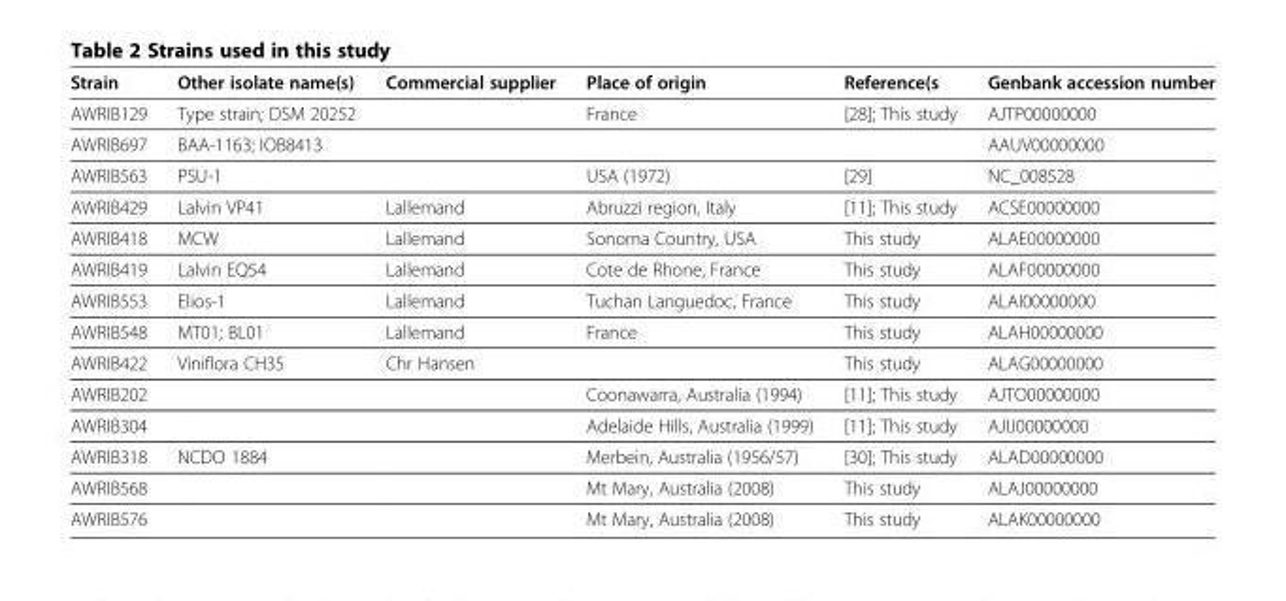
<table><thead><tr><td>Strain</td><td>Other isolate name(s)</td><td>Commercial supplier</td><td>Place of origin</td><td>Reference(s</td><td>Genbank accession number</td></tr></thead><tbody><tr><td>AWRIB129</td><td>Type strain; DSM 20252</td><td></td><td>France</td><td>[28]; This study</td><td>AJTP00000000</td></tr><tr><td>AWRIB697</td><td>BAA-1163; IOB8413</td><td></td><td></td><td></td><td>AAUV00000000</td></tr><tr><td>AWRIB563</td><td>PSU-1</td><td></td><td>USA (1972)</td><td>[29]</td><td>NC_008528</td></tr><tr><td>AWRIB429</td><td>Lalvin VP41</td><td>Lallemand</td><td>Abruzzi region, Italy</td><td>[11]; This study</td><td>ACSE00000000</td></tr><tr><td>AWRIB418</td><td>MCW</td><td>Lallemand</td><td>Sonoma Country, USA</td><td>This study</td><td>ALAE00000000</td></tr><tr><td>AWRIB419</td><td>Lalvin EQ54</td><td>Lallemand</td><td>Cote de Rhone, France</td><td>This study</td><td>ALAF00000000</td></tr><tr><td>AWRIB553</td><td>Elios-1</td><td>Lallemand</td><td>Tuchan Languedoc, France</td><td>This study</td><td>ALAI00000000</td></tr><tr><td>AWRIB548</td><td>MT01; BL01</td><td>Lallemand</td><td>France</td><td>This study</td><td>ALAH00000000</td></tr><tr><td>AWRIB422</td><td>Viniflora CH35</td><td>Chr Hansen</td><td></td><td>This study</td><td>ALAG00000000</td></tr><tr><td>AWRIB202</td><td></td><td></td><td>Coonawarra, Australia (1994)</td><td>[11]; This study</td><td>AJTO00000000</td></tr><tr><td>AWRIB304</td><td></td><td></td><td>Adelaide Hills, Australia (1999)</td><td>[11]; This study</td><td>AJIJ00000000</td></tr><tr><td>AWRIB318</td><td>NCDO 1884</td><td></td><td>Merbein, Australia (1956/57)</td><td>[30]; This study</td><td>ALAD00000000</td></tr><tr><td>AWRIB568</td><td></td><td></td><td>Mt Mary, Australia (2008)</td><td>This study</td><td>ALAJ00000000</td></tr><tr><td>AWRIB576</td><td></td><td></td><td>Mt Mary, Australia (2008)</td><td>This study</td><td>ALAK00000000</td></tr></tbody></table>